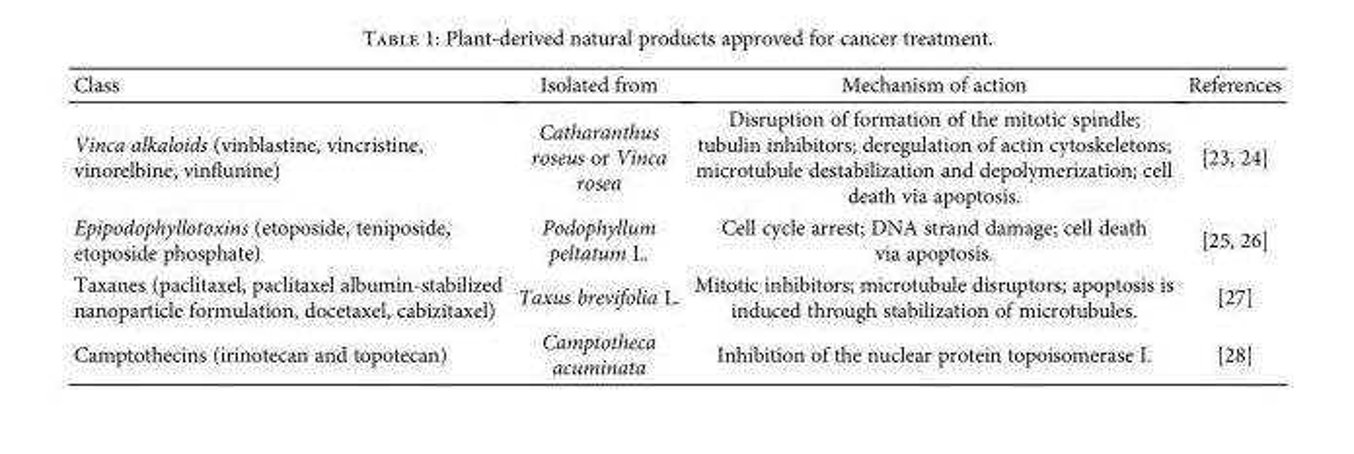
<table><thead><tr><td>Class</td><td>Isolated from</td><td>Mechanism of action</td><td>References</td></tr></thead><tbody><tr><td>Vinca alkaloids (vinblastine, vincristine, vinorelbine, vinflunine)</td><td>Catharanthus roseus or Vinca rosea</td><td>Disruption of formation of the mitotic spindle; tubulin inhibitors; deregulation of actin cytoskeletons; microtubule destabilization and depolymerization; cell death via apoptosis.</td><td>[23, 24]</td></tr><tr><td>Epipodophyllotoxins (etoposide, teniposide, etoposide phosphate)</td><td>Podophyllum peltatum L.</td><td>Cell cycle arrest; DNA strand damage; cell death via apoptosis.</td><td>[25, 26]</td></tr><tr><td>Taxanes (paclitaxel, paclitaxel albumin-stabilized nanoparticle formulation, docetaxel, cabizitaxel)</td><td>Taxus brevifolia L.</td><td>Mitotic inhibitors; microtubule disruptors; apoptosis is induced through stabilization of microtubules.</td><td>[27]</td></tr><tr><td>Camptothecins (irinotecan and topotecan)</td><td>Camptotheca acuminata</td><td>Inhibition of the nuclear protein topoisomerase I.</td><td>[28]</td></tr></tbody></table>